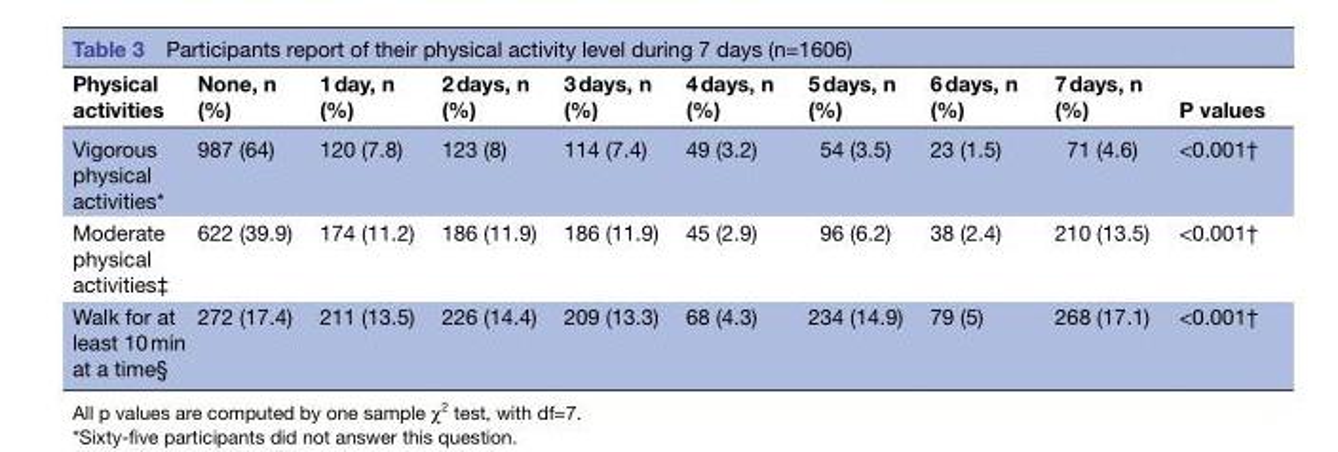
<table><thead><tr><td>Physical activities</td><td>None, n (%)</td><td>1 day, n (%)</td><td>2 days, n (%)</td><td>3 days, n (%)</td><td>4 days, n (%)</td><td>5 days, n (%)</td><td>6 days, n (%)</td><td>7 days, n (%)</td><td>P values</td></tr></thead><tbody><tr><td>Vigorous physical activities*</td><td>987 (64)</td><td>120 (7.8)</td><td>123 (8)</td><td>114 (7.4)</td><td>49 (3.2)</td><td>54 (3.5)</td><td>23 (1.5)</td><td>71 (4.6)</td><td>&lt;0.001†</td></tr><tr><td>Moderate physical activities‡</td><td>622 (39.9)</td><td>174 (11.2)</td><td>186 (11.9)</td><td>186 (11.9)</td><td>45 (2.9)</td><td>96 (6.2)</td><td>38 (2.4)</td><td>210 (13.5)</td><td>&lt;0.001†</td></tr><tr><td>Walk for at least 10 min at a time§</td><td>272 (17.4)</td><td>211 (13.5)</td><td>226 (14.4)</td><td>209 (13.3)</td><td>68 (4.3)</td><td>234 (14.9)</td><td>79 (5)</td><td>268 (17.1)</td><td>&lt;0.001†</td></tr></tbody></table>